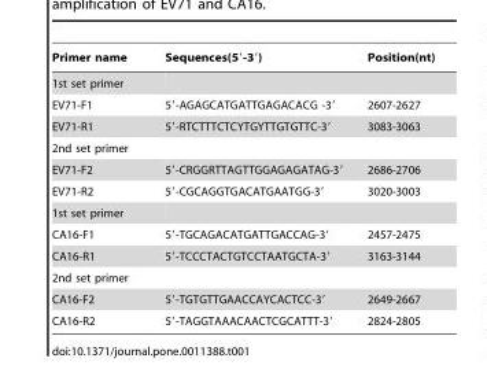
<table><thead><tr><td>Primer name</td><td>Sequences(5′-3′)</td><td>Position(nt)</td></tr></thead><tbody><tr><td colspan="3">1st set primer</td></tr><tr><td>EV71-F1</td><td>5′-AGAGCATGATTGAGACACG -3′</td><td>2607-2627</td></tr><tr><td>EV71-R1</td><td>5′-RTCTTTCTCYTGYTTGTGTTC-3′</td><td>3083-3063</td></tr><tr><td colspan="3">2nd set primer</td></tr><tr><td>EV71-F2</td><td>5′-CRGGRTTAGTTGGAGAGATAG-3′</td><td>2686-2706</td></tr><tr><td>EV71-R2</td><td>5′-CGCAGGTGACATGAATGG-3′</td><td>3020-3003</td></tr><tr><td colspan="3">1st set primer</td></tr><tr><td>CA16-F1</td><td>5′-TGCAGACATGATTGACCAG-3′</td><td>2457-2475</td></tr><tr><td>CA16-R1</td><td>5′-TCCCTACTGTCCTAATGCTA-3′</td><td>3163-3144</td></tr><tr><td colspan="3">2nd set primer</td></tr><tr><td>CA16-F2</td><td>5′-TGTGTTGAACCAYCACTCC-3′</td><td>2649-2667</td></tr><tr><td>CA16-R2</td><td>5′-TAGGTAAACAACTCGCATTT-3′</td><td>2824-2805</td></tr></tbody></table>